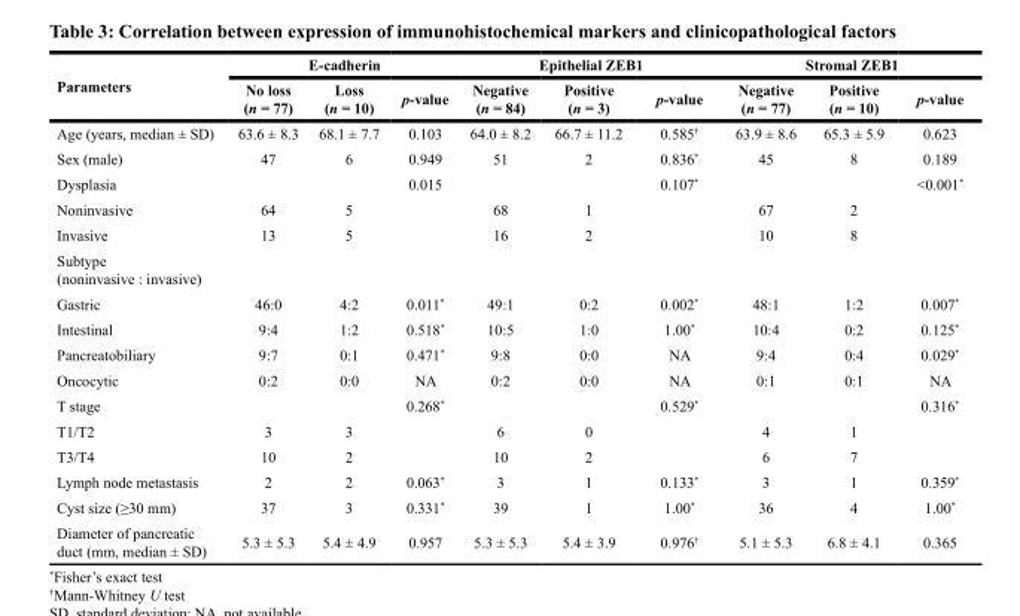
<table><thead><tr><td rowspan="2">Parameters</td><td colspan="3">E-cadherin</td><td colspan="3">Epithelial ZEB1</td><td colspan="3">Stromal ZEB1</td></tr><tr><td>No loss (n = 77)</td><td>Loss (n = 10)</td><td>p-value</td><td>Negative (n = 84)</td><td>Positive (n = 3)</td><td>p-value</td><td>Negative (n = 77)</td><td>Positive (n = 10)</td><td>p-value</td></tr></thead><tbody><tr><td>Age (years, median ± SD)</td><td>63.6 ± 8.3</td><td>68.1 ± 7.7</td><td>0.103</td><td>64.0 ± 8.2</td><td>66.7 ± 11.2</td><td>0.585<sup>†</sup></td><td>63.9 ± 8.6</td><td>65.3 ± 5.9</td><td>0.623</td></tr><tr><td>Sex (male)</td><td>47</td><td>6</td><td>0.949</td><td>51</td><td>2</td><td>0.836*</td><td>45</td><td>8</td><td>0.189</td></tr><tr><td>Dysplasia</td><td></td><td></td><td>0.015</td><td></td><td></td><td>0.107*</td><td></td><td></td><td>&lt;0.001*</td></tr><tr><td>Noninvasive</td><td>64</td><td>5</td><td></td><td>68</td><td>1</td><td></td><td>67</td><td>2</td><td></td></tr><tr><td>Invasive</td><td>13</td><td>5</td><td></td><td>16</td><td>2</td><td></td><td>10</td><td>8</td><td></td></tr><tr><td colspan="10">Subtype (noninvasive : invasive)</td></tr><tr><td>Gastric</td><td>46:0</td><td>4:2</td><td>0.011*</td><td>49:1</td><td>0:2</td><td>0.002*</td><td>48:1</td><td>1:2</td><td>0.007*</td></tr><tr><td>Intestinal</td><td>9:4</td><td>1:2</td><td>0.518*</td><td>10:5</td><td>1:0</td><td>1.00*</td><td>10:4</td><td>0:2</td><td>0.125*</td></tr><tr><td>Pancreatobiliary</td><td>9:7</td><td>0:1</td><td>0.471*</td><td>9:8</td><td>0:0</td><td>NA</td><td>9:4</td><td>0:4</td><td>0.029*</td></tr><tr><td>Oncocytic</td><td>0:2</td><td>0:0</td><td>NA</td><td>0:2</td><td>0:0</td><td>NA</td><td>0:1</td><td>0:1</td><td>NA</td></tr><tr><td>T stage</td><td></td><td></td><td>0.268*</td><td></td><td></td><td>0.529*</td><td></td><td></td><td>0.316*</td></tr><tr><td>T1/T2</td><td>3</td><td>3</td><td></td><td>6</td><td>0</td><td></td><td>4</td><td>1</td><td></td></tr><tr><td>T3/T4</td><td>10</td><td>2</td><td></td><td>10</td><td>2</td><td></td><td>6</td><td>7</td><td></td></tr><tr><td>Lymph node metastasis</td><td>2</td><td>2</td><td>0.063*</td><td>3</td><td>1</td><td>0.133*</td><td>3</td><td>1</td><td>0.359*</td></tr><tr><td>Cyst size (≥30 mm)</td><td>37</td><td>3</td><td>0.331*</td><td>39</td><td>1</td><td>1.00*</td><td>36</td><td>4</td><td>1.00*</td></tr><tr><td>Diameter of pancreatic duct (mm, median ± SD)</td><td>5.3 ± 5.3</td><td>5.4 ± 4.9</td><td>0.957</td><td>5.3 ± 5.3</td><td>5.4 ± 3.9</td><td>0.976<sup>†</sup></td><td>5.1 ± 5.3</td><td>6.8 ± 4.1</td><td>0.365</td></tr></tbody></table>